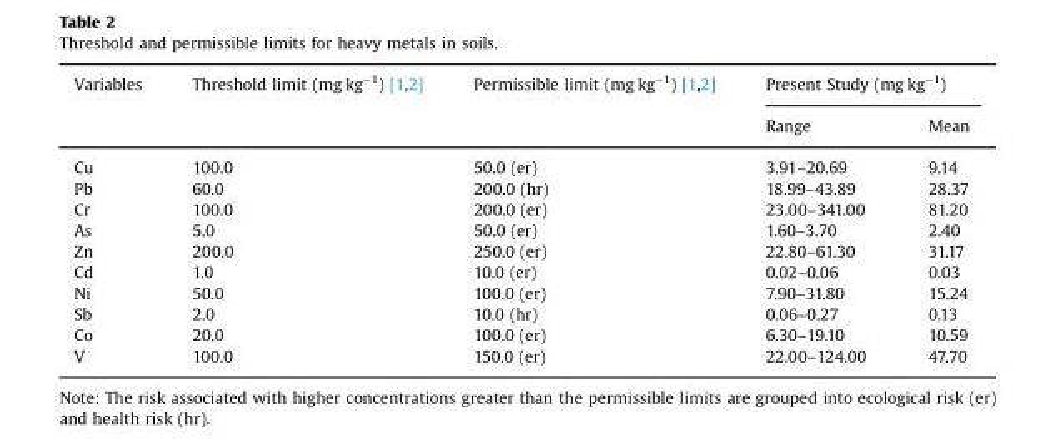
<table><thead><tr><td rowspan="2">Variables</td><td rowspan="2">Threshold limit (mg kg−1) [1,2]</td><td rowspan="2">Permissible limit (mg kg−1) [1,2]</td><td colspan="2">Present Study (mg kg<sup>−1</sup>)</td></tr><tr><td>Range</td><td>Mean</td></tr></thead><tbody><tr><td>Cu</td><td>100.0</td><td>50.0 (er)</td><td>3.91–20.69</td><td>9.14</td></tr><tr><td>Pb</td><td>60.0</td><td>200.0 (hr)</td><td>18.99–43.89</td><td>28.37</td></tr><tr><td>Cr</td><td>100.0</td><td>200.0 (er)</td><td>23.00–341.00</td><td>81.20</td></tr><tr><td>As</td><td>5.0</td><td>50.0 (er)</td><td>1.60–3.70</td><td>2.40</td></tr><tr><td>Zn</td><td>200.0</td><td>250.0 (er)</td><td>22.80–61.30</td><td>31.17</td></tr><tr><td>Cd</td><td>1.0</td><td>10.0 (er)</td><td>0.02–0.06</td><td>0.03</td></tr><tr><td>Ni</td><td>50.0</td><td>100.0 (er)</td><td>7.90–31.80</td><td>15.24</td></tr><tr><td>Sb</td><td>2.0</td><td>10.0 (hr)</td><td>0.06–0.27</td><td>0.13</td></tr><tr><td>Co</td><td>20.0</td><td>100.0 (er)</td><td>6.30–19.10</td><td>10.59</td></tr><tr><td>V</td><td>100.0</td><td>150.0 (er)</td><td>22.00–124.00</td><td>47.70</td></tr></tbody></table>